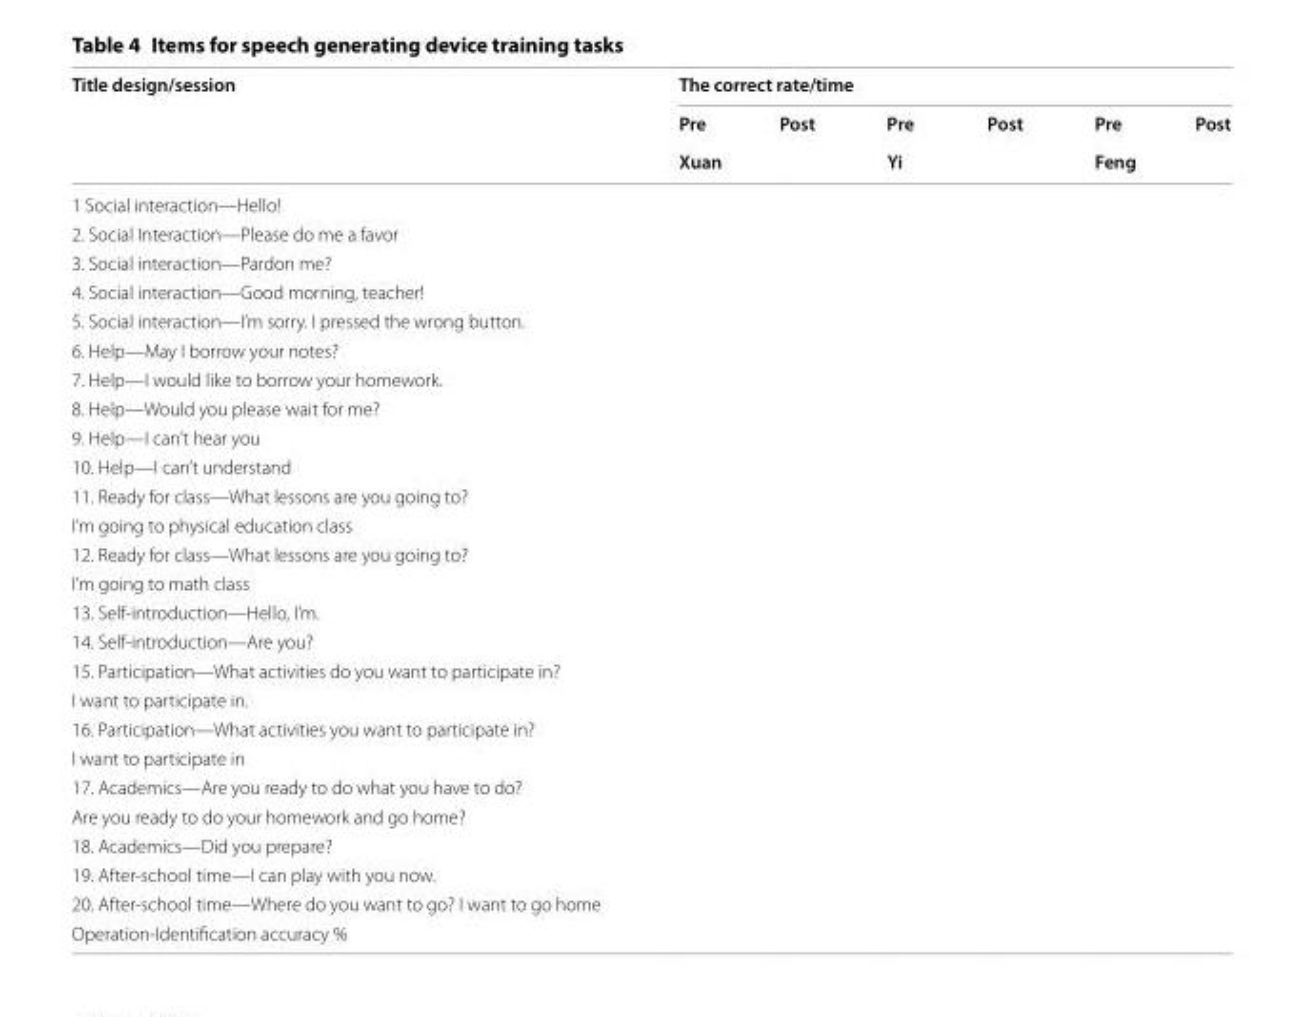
<table><thead><tr><td rowspan="3">Title design/session</td><td colspan="6">The correct rate/time</td></tr><tr><td>Pre</td><td>Post</td><td>Pre</td><td>Post</td><td>Pre</td><td>Post</td></tr><tr><td colspan="2">Xuan</td><td colspan="2">Yi</td><td colspan="2">Feng</td></tr></thead><tbody><tr><td colspan="7">1 Social interaction—Hello!</td></tr><tr><td colspan="7">2. Social Interaction—Please do me a favor</td></tr><tr><td colspan="7">3. Social interaction—Pardon me?</td></tr><tr><td colspan="7">4. Social interaction—Good morning, teacher!</td></tr><tr><td colspan="7">5. Social interaction—I’m sorry. I pressed the wrong button.</td></tr><tr><td colspan="7">6. Help—May I borrow your notes?</td></tr><tr><td colspan="7">7. Help—I would like to borrow your homework.</td></tr><tr><td colspan="7">8. Help—Would you please wait for me?</td></tr><tr><td colspan="7">9. Help—I can’t hear you</td></tr><tr><td colspan="7">10. Help—I can’t understand</td></tr><tr><td colspan="7">11. Ready for class—What lessons are you going to?</td></tr><tr><td colspan="7">I’m going to physical education class</td></tr><tr><td colspan="7">12. Ready for class—What lessons are you going to?</td></tr><tr><td colspan="7">I’m going to math class</td></tr><tr><td colspan="7">13. Self‑introduction—Hello, I’m.</td></tr><tr><td colspan="7">14. Self‑introduction—Are you?</td></tr><tr><td colspan="7">15. Participation—What activities do you want to participate in?</td></tr><tr><td colspan="7">I want to participate in.</td></tr><tr><td colspan="7">16. Participation—What activities you want to participate in?</td></tr><tr><td colspan="7">I want to participate in</td></tr><tr><td colspan="7">17. Academics—Are you ready to do what you have to do?</td></tr><tr><td colspan="7">Are you ready to do your homework and go home?</td></tr><tr><td colspan="7">18. Academics—Did you prepare?</td></tr><tr><td colspan="7">19. After‑school time—I can play with you now.</td></tr><tr><td colspan="7">20. After‑school time—Where do you want to go? I want to go home</td></tr><tr><td>Operation‑Identification accuracy %</td><td></td><td></td><td></td><td></td><td></td><td></td></tr></tbody></table>